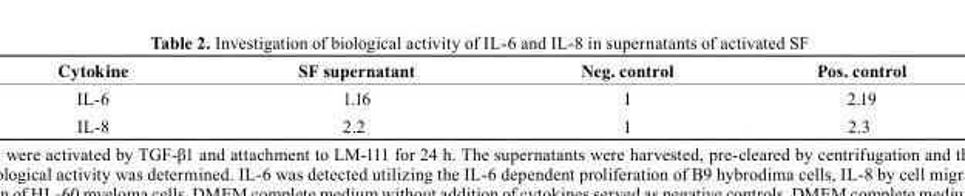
<table><thead><tr><td>cytokine</td><td>SF supernatant</td><td>Neg. control</td><td>Pos. control</td></tr></thead><tbody><tr><td>IL-6</td><td>1.16</td><td>1</td><td>2.19</td></tr><tr><td>IL-8</td><td>2.2</td><td>1</td><td>2.3</td></tr></tbody></table>